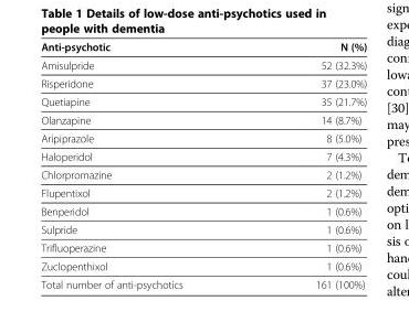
<table><thead><tr><td>Anti-psychotic</td><td>N (%)</td></tr></thead><tbody><tr><td>Amisulpride</td><td>52 (32.3%)</td></tr><tr><td>Risperidone</td><td>37 (23.0%)</td></tr><tr><td>Quetiapine</td><td>35 (21.7%)</td></tr><tr><td>Olanzapine</td><td>14 (8.7%)</td></tr><tr><td>Aripiprazole</td><td>8 (5.0%)</td></tr><tr><td>Haloperidol</td><td>7 (4.3%)</td></tr><tr><td>Chlorpromazine</td><td>2 (1.2%)</td></tr><tr><td>Flupentixol</td><td>2 (1.2%)</td></tr><tr><td>Benperidol</td><td>1 (0.6%)</td></tr><tr><td>Sulpride</td><td>1 (0.6%)</td></tr><tr><td>Trifluoperazine</td><td>1 (0.6%)</td></tr><tr><td>Zuclopenthixol</td><td>1 (0.6%)</td></tr><tr><td>Total number of anti-psychotics</td><td>161 (100%)</td></tr></tbody></table>